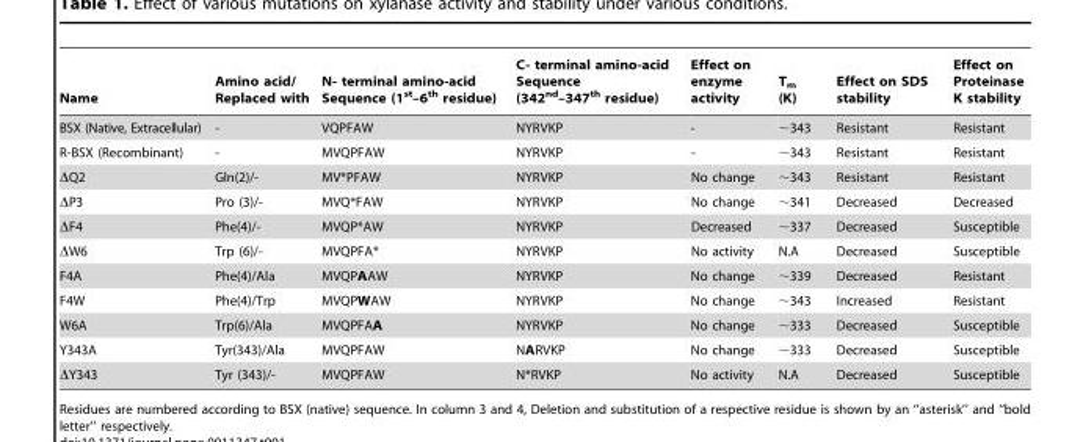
<table><thead><tr><td>Name</td><td>Amino acid/ Replaced with</td><td>N- terminal amino-acid Sequence (1<sup>st</sup>–6<sup>th</sup> residue)</td><td>C- terminal amino-acid Sequence (342<sup>nd</sup>–347<sup>th</sup> residue)</td><td>Effect on enzyme activity</td><td>T<sub>m</sub> (K)</td><td>Effect on SDS stability</td><td>Effect on Proteinase K stability</td></tr></thead><tbody><tr><td>BSX (Native, Extracellular)</td><td>-</td><td>VQPFAW</td><td>NYRVKP</td><td>-</td><td>∼343</td><td>Resistant</td><td>Resistant</td></tr><tr><td>R-BSX (Recombinant)</td><td>-</td><td>MVQPFAW</td><td>NYRVKP</td><td>-</td><td>∼343</td><td>Resistant</td><td>Resistant</td></tr><tr><td>ΔQ2</td><td>Gln(2)/-</td><td>MV*PFAW</td><td>NYRVKP</td><td>No change</td><td>∼343</td><td>Resistant</td><td>Resistant</td></tr><tr><td>ΔP3</td><td>Pro (3)/-</td><td>MVQ*FAW</td><td>NYRVKP</td><td>No change</td><td>∼341</td><td>Decreased</td><td>Decreased</td></tr><tr><td>ΔF4</td><td>Phe(4)/-</td><td>MVQP*AW</td><td>NYRVKP</td><td>Decreased</td><td>∼337</td><td>Decreased</td><td>Susceptible</td></tr><tr><td>ΔW6</td><td>Trp (6)/-</td><td>MVQPFA*</td><td>NYRVKP</td><td>No activity</td><td>N.A</td><td>Decreased</td><td>Susceptible</td></tr><tr><td>F4A</td><td>Phe(4)/Ala</td><td>MVQPAAW</td><td>NYRVKP</td><td>No change</td><td>∼339</td><td>Decreased</td><td>Resistant</td></tr><tr><td>F4W</td><td>Phe(4)/Trp</td><td>MVQPWAW</td><td>NYRVKP</td><td>No change</td><td>∼343</td><td>Increased</td><td>Resistant</td></tr><tr><td>W6A</td><td>Trp(6)/Ala</td><td>MVQPFAA</td><td>NYRVKP</td><td>No change</td><td>∼333</td><td>Decreased</td><td>Susceptible</td></tr><tr><td>Y343A</td><td>Tyr(343)/Ala</td><td>MVQPFAW</td><td>NARVKP</td><td>No change</td><td>∼333</td><td>Decreased</td><td>Susceptible</td></tr><tr><td>ΔY343</td><td>Tyr (343)/-</td><td>MVQPFAW</td><td>N*RVKP</td><td>No activity</td><td>N.A</td><td>Decreased</td><td>Susceptible</td></tr></tbody></table>